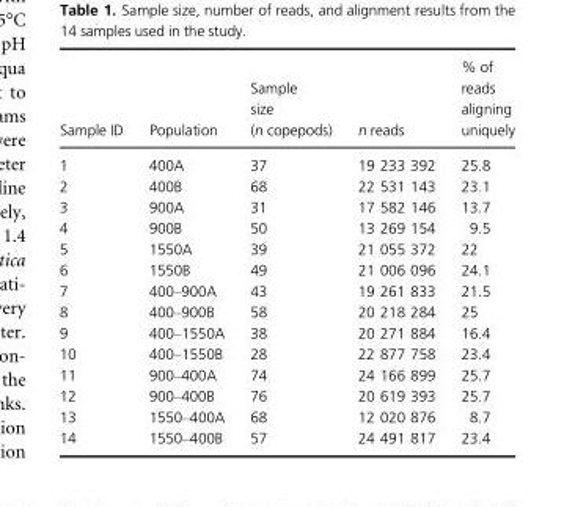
<table><thead><tr><td>Sample ID</td><td>Population</td><td>Sample size (n copepods)</td><td>n reads</td><td>% of reads aligning uniquely</td></tr></thead><tbody><tr><td>1</td><td>400A</td><td>37</td><td>19 233 392</td><td>25.8</td></tr><tr><td>2</td><td>400B</td><td>68</td><td>22 531 143</td><td>23.1</td></tr><tr><td>3</td><td>900A</td><td>31</td><td>17 582 146</td><td>13.7</td></tr><tr><td>4</td><td>900B</td><td>50</td><td>13 269 154</td><td>9.5</td></tr><tr><td>5</td><td>1550A</td><td>39</td><td>21 055 372</td><td>22</td></tr><tr><td>6</td><td>1550B</td><td>49</td><td>21 006 096</td><td>24.1</td></tr><tr><td>7</td><td>400–900A</td><td>43</td><td>19 261 833</td><td>21.5</td></tr><tr><td>8</td><td>400–900B</td><td>58</td><td>20 218 284</td><td>25</td></tr><tr><td>9</td><td>400–1550A</td><td>38</td><td>20 271 884</td><td>16.4</td></tr><tr><td>10</td><td>400–1550B</td><td>28</td><td>22 877 758</td><td>23.4</td></tr><tr><td>11</td><td>900–400A</td><td>74</td><td>24 166 899</td><td>25.7</td></tr><tr><td>12</td><td>900–400B</td><td>76</td><td>20 619 393</td><td>25.7</td></tr><tr><td>13</td><td>1550–400A</td><td>68</td><td>12 020 876</td><td>8.7</td></tr><tr><td>14</td><td>1550–400B</td><td>57</td><td>24 491 817</td><td>23.4</td></tr></tbody></table>